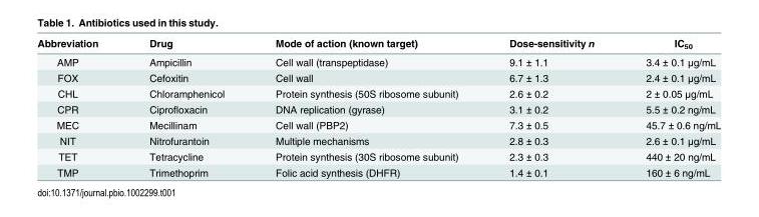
<table><thead><tr><td>Abbreviation</td><td>Drug</td><td>Mode of action (known target)</td><td>Dose-sensitivity n</td><td>IC<sub>50</sub></td></tr></thead><tbody><tr><td>AMP</td><td>Ampicillin</td><td>Cell wall (transpeptidase)</td><td>9.1 ± 1.1</td><td>3.4 ± 0.1 μg/mL</td></tr><tr><td>FOX</td><td>Cefoxitin</td><td>Cell wall</td><td>6.7 ± 1.3</td><td>2.4 ± 0.1 μg/mL</td></tr><tr><td>CHL</td><td>Chloramphenicol</td><td>Protein synthesis (50S ribosome subunit)</td><td>2.6 ± 0.2</td><td>2 ± 0.05 μg/mL</td></tr><tr><td>CPR</td><td>Ciprofloxacin</td><td>DNA replication (gyrase)</td><td>3.1 ± 0.2</td><td>5.5 ± 0.2 ng/mL</td></tr><tr><td>MEC</td><td>Mecillinam</td><td>Cell wall (PBP2)</td><td>7.3 ± 0.5</td><td>45.7 ± 0.6 ng/mL</td></tr><tr><td>NIT</td><td>Nitrofurantoin</td><td>Multiple mechanisms</td><td>2.8 ± 0.3</td><td>2.6 ± 0.1 μg/mL</td></tr><tr><td>TET</td><td>Tetracycline</td><td>Protein synthesis (30S ribosome subunit)</td><td>2.3 ± 0.3</td><td>440 ± 20 ng/mL</td></tr><tr><td>TMP</td><td>Trimethoprim</td><td>Folic acid synthesis (DHFR)</td><td>1.4 ± 0.1</td><td>160 ± 6 ng/mL</td></tr></tbody></table>